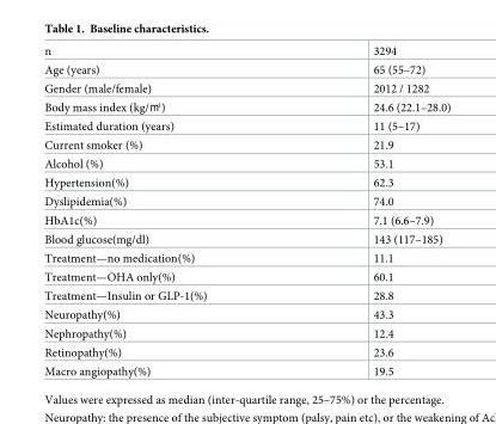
<table><tbody><tr><td>n</td><td>3294</td></tr><tr><td>Age (years)</td><td>65 (55–72)</td></tr><tr><td>Gender (male/female)</td><td>2012 / 1282</td></tr><tr><td>Body mass index (kg/㎡)</td><td>24.6 (22.1–28.0)</td></tr><tr><td>Estimated duration (years)</td><td>11 (5–17)</td></tr><tr><td>Current smoker (%)</td><td>21.9</td></tr><tr><td>Alcohol (%)</td><td>53.1</td></tr><tr><td>Hypertension(%)</td><td>62.3</td></tr><tr><td>Dyslipidemia(%)</td><td>74.0</td></tr><tr><td>HbA1c(%)</td><td>7.1 (6.6–7.9)</td></tr><tr><td>Blood glucose(mg/dl)</td><td>143 (117–185)</td></tr><tr><td>Treatment—no medication(%)</td><td>11.1</td></tr><tr><td>Treatment—OHA only(%)</td><td>60.1</td></tr><tr><td>Treatment—Insulin or GLP-1(%)</td><td>28.8</td></tr><tr><td>Neuropathy(%)</td><td>43.3</td></tr><tr><td>Nephropathy(%)</td><td>12.4</td></tr><tr><td>Retinopathy(%)</td><td>23.6</td></tr><tr><td>Macro angiopathy(%)</td><td>19.5</td></tr></tbody></table>